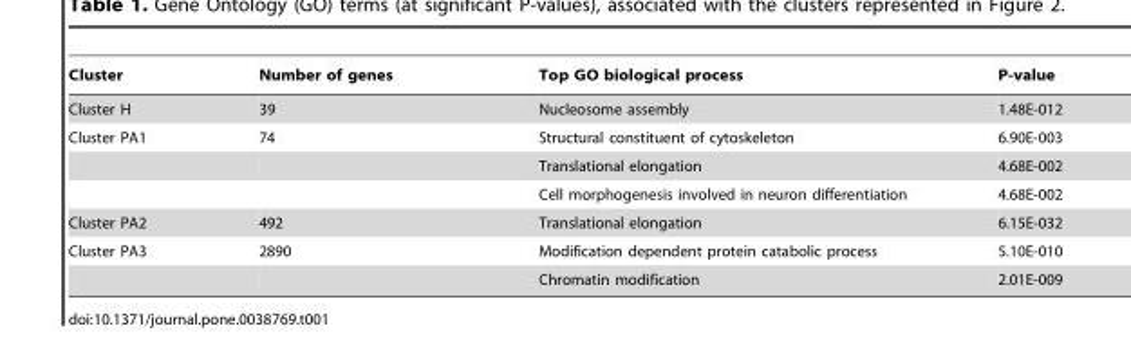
<table><thead><tr><td>Cluster</td><td>Number of genes</td><td>Top GO biological process</td><td>P-value</td></tr></thead><tbody><tr><td>Cluster H</td><td>39</td><td>Nucleosome assembly</td><td>1.48E-012</td></tr><tr><td rowspan="3">Cluster PA1</td><td>74</td><td>Structural constituent of cytoskeleton</td><td>6.90E-003</td></tr><tr><td></td><td>Translational elongation</td><td>4.68E-002</td></tr><tr><td></td><td>Cell morphogenesis involved in neuron differentiation</td><td>4.68E-002</td></tr><tr><td>Cluster PA2</td><td>492</td><td>Translational elongation</td><td>6.15E-032</td></tr><tr><td rowspan="2">Cluster PA3</td><td>2890</td><td>Modification dependent protein catabolic process</td><td>5.10E-010</td></tr><tr><td></td><td>Chromatin modification</td><td>2.01E-009</td></tr></tbody></table>